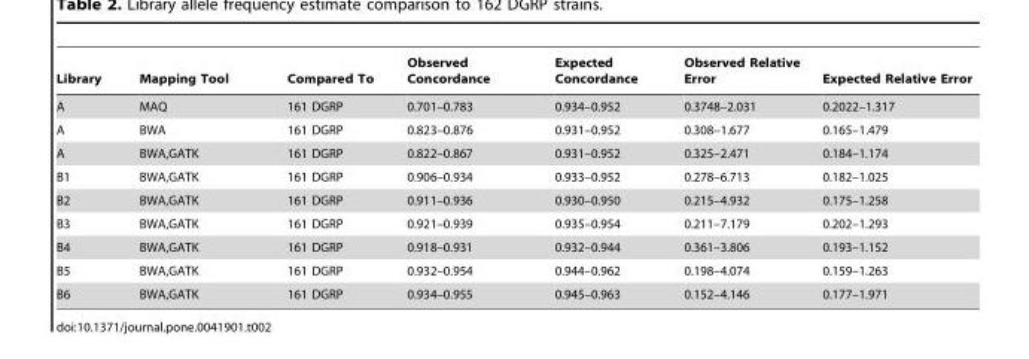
<table><thead><tr><td>Library</td><td>Mapping Tool</td><td>Compared To</td><td>Observed Concordance</td><td>Expected Concordance</td><td>Observed Relative Error</td><td>Expected Relative Error</td></tr></thead><tbody><tr><td>A</td><td>MAQ</td><td>161 DGRP</td><td>0.701–0.783</td><td>0.934–0.952</td><td>0.3748–2.031</td><td>0.2022–1.317</td></tr><tr><td>A</td><td>BWA</td><td>161 DGRP</td><td>0.823–0.876</td><td>0.931–0.952</td><td>0.308–1.677</td><td>0.165–1.479</td></tr><tr><td>A</td><td>BWA,GATK</td><td>161 DGRP</td><td>0.822–0.867</td><td>0.931–0.952</td><td>0.325–2.471</td><td>0.184–1.174</td></tr><tr><td>B1</td><td>BWA,GATK</td><td>161 DGRP</td><td>0.906–0.934</td><td>0.933–0.952</td><td>0.278–6.713</td><td>0.182–1.025</td></tr><tr><td>B2</td><td>BWA,GATK</td><td>161 DGRP</td><td>0.911–0.936</td><td>0.930–0.950</td><td>0.215–4.932</td><td>0.175–1.258</td></tr><tr><td>B3</td><td>BWA,GATK</td><td>161 DGRP</td><td>0.921–0.939</td><td>0.935–0.954</td><td>0.211–7.179</td><td>0.202–1.293</td></tr><tr><td>B4</td><td>BWA,GATK</td><td>161 DGRP</td><td>0.918–0.931</td><td>0.932–0.944</td><td>0.361–3.806</td><td>0.193–1.152</td></tr><tr><td>B5</td><td>BWA,GATK</td><td>161 DGRP</td><td>0.932–0.954</td><td>0.944–0.962</td><td>0.198–4.074</td><td>0.159–1.263</td></tr><tr><td>B6</td><td>BWA,GATK</td><td>161 DGRP</td><td>0.934–0.955</td><td>0.945–0.963</td><td>0.152–4.146</td><td>0.177–1.971</td></tr></tbody></table>